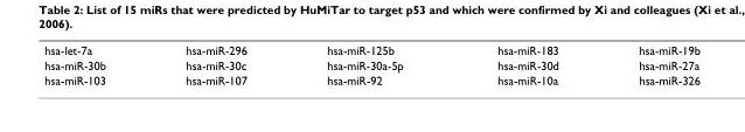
<table><tbody><tr><td>hsa-let-7a</td><td>hsa-miR-296</td><td>hsa-miR-125b</td><td>hsa-miR-183</td><td>hsa-miR-19b</td></tr><tr><td>hsa-miR-30b</td><td>hsa-miR-30c</td><td>hsa-miR-30a-5p</td><td>hsa-miR-30d</td><td>hsa-miR-27a</td></tr><tr><td>hsa-miR-103</td><td>hsa-miR-107</td><td>hsa-miR-92</td><td>hsa-miR-10a</td><td>hsa-miR-326</td></tr></tbody></table>